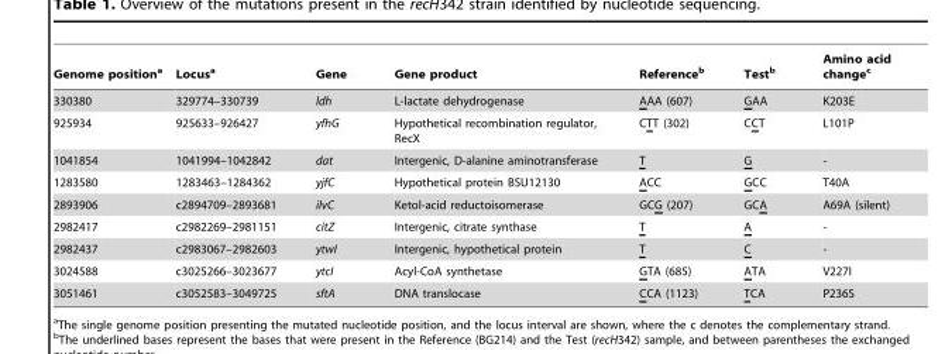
<table><thead><tr><td>Genome position<sup>a</sup></td><td>Locus<sup>a</sup></td><td>Gene</td><td>Gene product</td><td>Reference<sup>b</sup></td><td>Test<sup>b</sup></td><td>Amino acid change<sup>c</sup></td></tr></thead><tbody><tr><td>330380</td><td>329774–330739</td><td>ldh</td><td>L-lactate dehydrogenase</td><td>AAA (607)</td><td>GAA</td><td>K203E</td></tr><tr><td>925934</td><td>925633–926427</td><td>yfhG</td><td>Hypothetical recombination regulator, RecX</td><td>CTT (302)</td><td>CCT</td><td>L101P</td></tr><tr><td>1041854</td><td>1041994–1042842</td><td>dat</td><td>Intergenic, D-alanine aminotransferase</td><td>T</td><td>G</td><td>-</td></tr><tr><td>1283580</td><td>1283463–1284362</td><td>yjfC</td><td>Hypothetical protein BSU12130</td><td>ACC</td><td>GCC</td><td>T40A</td></tr><tr><td>2893906</td><td>c2894709–2893681</td><td>ilvC</td><td>Ketol-acid reductoisomerase</td><td>GCG (207)</td><td>GCA</td><td>A69A (silent)</td></tr><tr><td>2982417</td><td>c2982269–2981151</td><td>citZ</td><td>Intergenic, citrate synthase</td><td>T</td><td>A</td><td>-</td></tr><tr><td>2982437</td><td>c2983067–2982603</td><td>ytwI</td><td>Intergenic, hypothetical protein</td><td>T</td><td>C</td><td>-</td></tr><tr><td>3024588</td><td>c3025266–3023677</td><td>ytcI</td><td>Acyl-CoA synthetase</td><td>GTA (685)</td><td>ATA</td><td>V227I</td></tr><tr><td>3051461</td><td>c3052583–3049725</td><td>sftA</td><td>DNA translocase</td><td>CCA (1123)</td><td>TCA</td><td>P236S</td></tr></tbody></table>